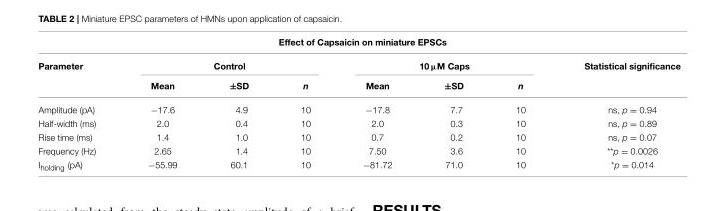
<table><thead><tr><td colspan="8">Effect of Capsaicin on miniature EPSCs</td></tr><tr><td rowspan="2">Parameter</td><td colspan="3">Control</td><td colspan="3">10 µM Caps</td><td rowspan="2">Statistical significance</td></tr><tr><td>Mean</td><td>±SD</td><td>n</td><td>Mean</td><td>±SD</td><td>n</td></tr></thead><tbody><tr><td>Amplitude (pA)</td><td>−17.6</td><td>4.9</td><td>10</td><td>−17.8</td><td>7.7</td><td>10</td><td>ns, p = 0.94</td></tr><tr><td>Half-width (ms)</td><td>2.0</td><td>0.4</td><td>10</td><td>2.0</td><td>0.3</td><td>10</td><td>ns, p = 0.89</td></tr><tr><td>Rise time (ms)</td><td>1.4</td><td>1.0</td><td>10</td><td>0.7</td><td>0.2</td><td>10</td><td>ns, p = 0.07</td></tr><tr><td>Frequency (Hz)</td><td>2.65</td><td>1.4</td><td>10</td><td>7.50</td><td>3.6</td><td>10</td><td>**p = 0.0026</td></tr><tr><td>I<sub>holding</sub> (pA)</td><td>−55.99</td><td>60.1</td><td>10</td><td>−81.72</td><td>71.0</td><td>10</td><td>*p = 0.014</td></tr></tbody></table>